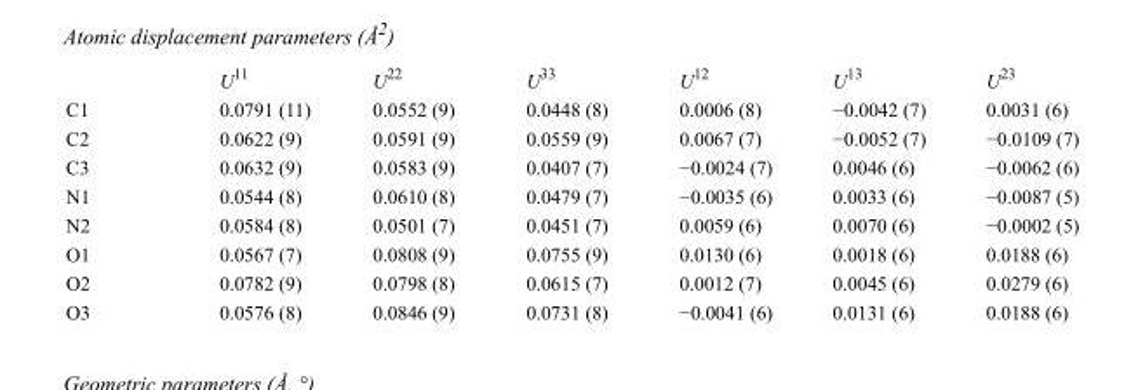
<table><thead><tr><td></td><td>U<sup>11</sup></td><td>U<sup>22</sup></td><td>U<sup>33</sup></td><td>U<sup>12</sup></td><td>U<sup>13</sup></td><td>U<sup>23</sup></td></tr></thead><tbody><tr><td>C1</td><td>0.0791 (11)</td><td>0.0552 (9)</td><td>0.0448 (8)</td><td>0.0006 (8)</td><td>−0.0042 (7)</td><td>0.0031 (6)</td></tr><tr><td>C2</td><td>0.0622 (9)</td><td>0.0591 (9)</td><td>0.0559 (9)</td><td>0.0067 (7)</td><td>−0.0052 (7)</td><td>−0.0109 (7)</td></tr><tr><td>C3</td><td>0.0632 (9)</td><td>0.0583 (9)</td><td>0.0407 (7)</td><td>−0.0024 (7)</td><td>0.0046 (6)</td><td>−0.0062 (6)</td></tr><tr><td>N1</td><td>0.0544 (8)</td><td>0.0610 (8)</td><td>0.0479 (7)</td><td>−0.0035 (6)</td><td>0.0033 (6)</td><td>−0.0087 (5)</td></tr><tr><td>N2</td><td>0.0584 (8)</td><td>0.0501 (7)</td><td>0.0451 (7)</td><td>0.0059 (6)</td><td>0.0070 (6)</td><td>−0.0002 (5)</td></tr><tr><td>O1</td><td>0.0567 (7)</td><td>0.0808 (9)</td><td>0.0755 (9)</td><td>0.0130 (6)</td><td>0.0018 (6)</td><td>0.0188 (6)</td></tr><tr><td>O2</td><td>0.0782 (9)</td><td>0.0798 (8)</td><td>0.0615 (7)</td><td>0.0012 (7)</td><td>0.0045 (6)</td><td>0.0279 (6)</td></tr><tr><td>O3</td><td>0.0576 (8)</td><td>0.0846 (9)</td><td>0.0731 (8)</td><td>−0.0041 (6)</td><td>0.0131 (6)</td><td>0.0188 (6)</td></tr></tbody></table>